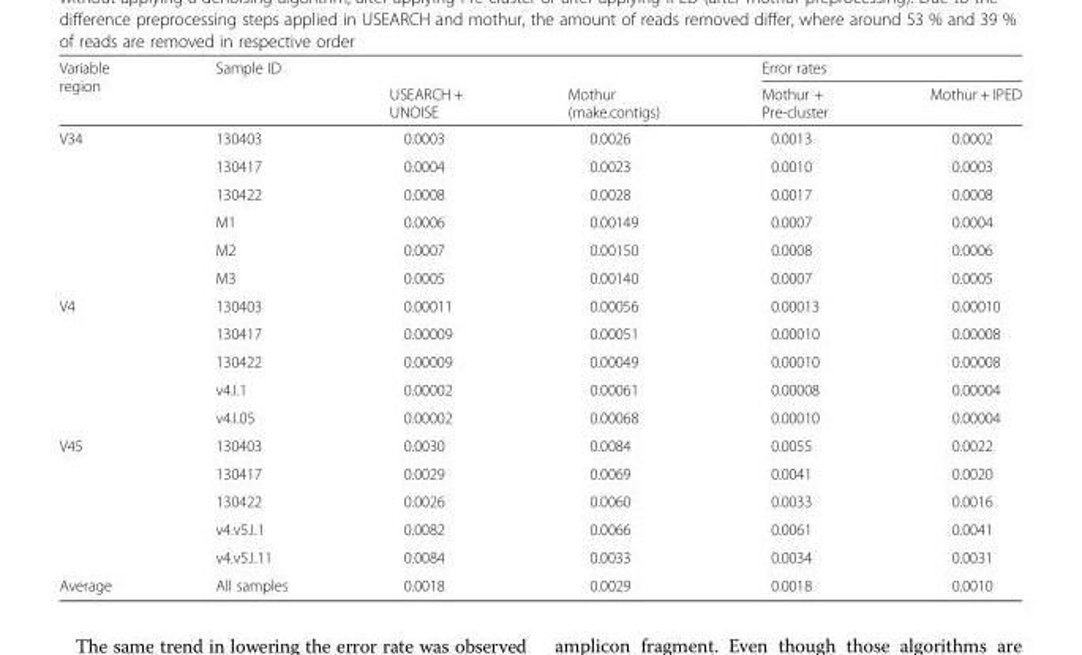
<table><thead><tr><td rowspan="2">Variable region</td><td rowspan="2">Sample ID</td><td rowspan="2">USEARCH + UNOISE</td><td rowspan="2">Mothur (make.contigs)</td><td colspan="2">Error rates</td></tr><tr><td>Mothur + Pre-cluster</td><td>Mothur + IPED</td></tr></thead><tbody><tr><td rowspan="6">V34</td><td>130403</td><td>0.0003</td><td>0.0026</td><td>0.0013</td><td>0.0002</td></tr><tr><td>130417</td><td>0.0004</td><td>0.0023</td><td>0.0010</td><td>0.0003</td></tr><tr><td>130422</td><td>0.0008</td><td>0.0028</td><td>0.0017</td><td>0.0008</td></tr><tr><td>M1</td><td>0.0006</td><td>0.00149</td><td>0.0007</td><td>0.0004</td></tr><tr><td>M2</td><td>0.0007</td><td>0.00150</td><td>0.0008</td><td>0.0006</td></tr><tr><td>M3</td><td>0.0005</td><td>0.00140</td><td>0.0007</td><td>0.0005</td></tr><tr><td rowspan="5">V4</td><td>130403</td><td>0.00011</td><td>0.00056</td><td>0.00013</td><td>0.00010</td></tr><tr><td>130417</td><td>0.00009</td><td>0.00051</td><td>0.00010</td><td>0.00008</td></tr><tr><td>130422</td><td>0.00009</td><td>0.00049</td><td>0.00010</td><td>0.00008</td></tr><tr><td>v4.I.1</td><td>0.00002</td><td>0.00061</td><td>0.00008</td><td>0.00004</td></tr><tr><td>v4.I.05</td><td>0.00002</td><td>0.00068</td><td>0.00010</td><td>0.00004</td></tr><tr><td rowspan="5">V45</td><td>130403</td><td>0.0030</td><td>0.0084</td><td>0.0055</td><td>0.0022</td></tr><tr><td>130417</td><td>0.0029</td><td>0.0069</td><td>0.0041</td><td>0.0020</td></tr><tr><td>130422</td><td>0.0026</td><td>0.0060</td><td>0.0033</td><td>0.0016</td></tr><tr><td>v4.v5.I.1</td><td>0.0082</td><td>0.0066</td><td>0.0061</td><td>0.0041</td></tr><tr><td>v4.v5.I.11</td><td>0.0084</td><td>0.0033</td><td>0.0034</td><td>0.0031</td></tr><tr><td>Average</td><td>All samples</td><td>0.0018</td><td>0.0029</td><td>0.0018</td><td>0.0010</td></tr></tbody></table>